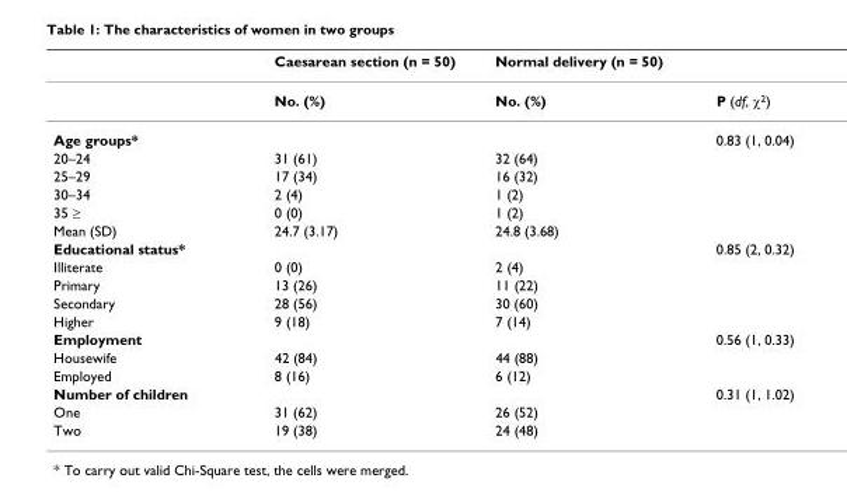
<table><thead><tr><td></td><td>Caesarean section (n = 50)</td><td>Normal delivery (n = 50)</td><td></td></tr></thead><tbody><tr><td></td><td>No. (%)</td><td>No. (%)</td><td>P (df, χ<sup>2</sup>)</td></tr><tr><td>Age groups*</td><td></td><td></td><td>0.83 (1, 0.04)</td></tr><tr><td>20–24</td><td>31 (61)</td><td>32 (64)</td><td></td></tr><tr><td>25–29</td><td>17 (34)</td><td>16 (32)</td><td></td></tr><tr><td>30–34</td><td>2 (4)</td><td>1 (2)</td><td></td></tr><tr><td>35 ≥</td><td>0 (0)</td><td>1 (2)</td><td></td></tr><tr><td>Mean (SD)</td><td>24.7 (3.17)</td><td>24.8 (3.68)</td><td></td></tr><tr><td>Educational status*</td><td></td><td></td><td>0.85 (2, 0.32)</td></tr><tr><td>Illiterate</td><td>0 (0)</td><td>2 (4)</td><td></td></tr><tr><td>Primary</td><td>13 (26)</td><td>11 (22)</td><td></td></tr><tr><td>Secondary</td><td>28 (56)</td><td>30 (60)</td><td></td></tr><tr><td>Higher</td><td>9 (18)</td><td>7 (14)</td><td></td></tr><tr><td>Employment</td><td></td><td></td><td>0.56 (1, 0.33)</td></tr><tr><td>Housewife</td><td>42 (84)</td><td>44 (88)</td><td></td></tr><tr><td>Employed</td><td>8 (16)</td><td>6 (12)</td><td></td></tr><tr><td>Number of children</td><td></td><td></td><td>0.31 (1, 1.02)</td></tr><tr><td>One</td><td>31 (62)</td><td>26 (52)</td><td></td></tr><tr><td>Two</td><td>19 (38)</td><td>24 (48)</td><td></td></tr></tbody></table>